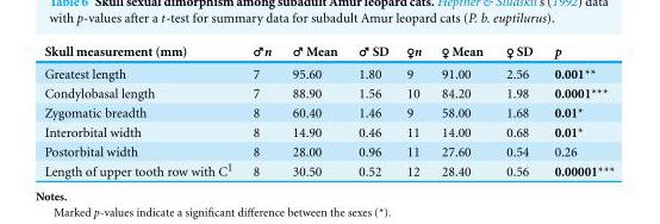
<table><thead><tr><td>Skull measurement (mm)</td><td>♂n</td><td>♂ Mean</td><td>♂ SD</td><td>♀n</td><td>♀ Mean</td><td>♀ SD</td><td>p</td></tr></thead><tbody><tr><td>Greatest length</td><td>7</td><td>95.60</td><td>1.80</td><td>9</td><td>91.00</td><td>2.56</td><td>0.001**</td></tr><tr><td>Condylobasal length</td><td>7</td><td>88.90</td><td>1.56</td><td>10</td><td>84.20</td><td>1.98</td><td>0.0001***</td></tr><tr><td>Zygomatic breadth</td><td>8</td><td>60.40</td><td>1.46</td><td>9</td><td>58.00</td><td>1.68</td><td>0.01*</td></tr><tr><td>Interorbital width</td><td>8</td><td>14.90</td><td>0.46</td><td>11</td><td>14.00</td><td>0.68</td><td>0.01*</td></tr><tr><td>Postorbital width</td><td>8</td><td>28.00</td><td>0.96</td><td>11</td><td>27.60</td><td>0.54</td><td>0.26</td></tr><tr><td>Length of upper tooth row with C<sup>1</sup></td><td>8</td><td>30.50</td><td>0.52</td><td>12</td><td>28.40</td><td>0.56</td><td>0.00001***</td></tr></tbody></table>